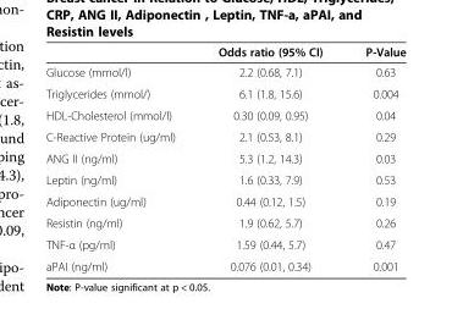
<table><thead><tr><td></td><td>Odds ratio (95% CI)</td><td>P-Value</td></tr></thead><tbody><tr><td>Glucose (mmol/l)</td><td>2.2 (0.68, 7.1)</td><td>0.63</td></tr><tr><td>Triglycerides (mmol/)</td><td>6.1 (1.8, 15.6)</td><td>0.004</td></tr><tr><td>HDL-Cholesterol (mmol/l)</td><td>0.30 (0.09, 0.95)</td><td>0.04</td></tr><tr><td>C-Reactive Protein (ug/ml)</td><td>2.1 (0.53, 8.1)</td><td>0.29</td></tr><tr><td>ANG II (ng/ml)</td><td>5.3 (1.2, 14.3)</td><td>0.03</td></tr><tr><td>Leptin (ng/ml)</td><td>1.6 (0.33, 7.9)</td><td>0.53</td></tr><tr><td>Adiponectin (ug/ml)</td><td>0.44 (0.12, 1.5)</td><td>0.19</td></tr><tr><td>Resistin (ng/ml)</td><td>1.9 (0.62, 5.7)</td><td>0.26</td></tr><tr><td>TNF-α (pg/ml)</td><td>1.59 (0.44, 5.7)</td><td>0.47</td></tr><tr><td>aPAI (ng/ml)</td><td>0.076 (0.01, 0.34)</td><td>0.001</td></tr></tbody></table>